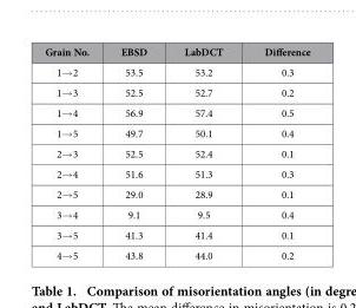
<table><thead><tr><td>Grain No.</td><td>EBSD</td><td>LabDCT</td><td>Difference</td></tr></thead><tbody><tr><td>1→ 2</td><td>53.5</td><td>53.2</td><td>0.3</td></tr><tr><td>1→ 3</td><td>52.5</td><td>52.7</td><td>0.2</td></tr><tr><td>1→ 4</td><td>56.9</td><td>57.4</td><td>0.5</td></tr><tr><td>1→ 5</td><td>49.7</td><td>50.1</td><td>0.4</td></tr><tr><td>2→ 3</td><td>52.5</td><td>52.4</td><td>0.1</td></tr><tr><td>2→ 4</td><td>51.6</td><td>51.3</td><td>0.3</td></tr><tr><td>2→ 5</td><td>29.0</td><td>28.9</td><td>0.1</td></tr><tr><td>3→ 4</td><td>9.1</td><td>9.5</td><td>0.4</td></tr><tr><td>3→ 5</td><td>41.3</td><td>41.4</td><td>0.1</td></tr><tr><td>4→ 5</td><td>43.8</td><td>44.0</td><td>0.2</td></tr></tbody></table>